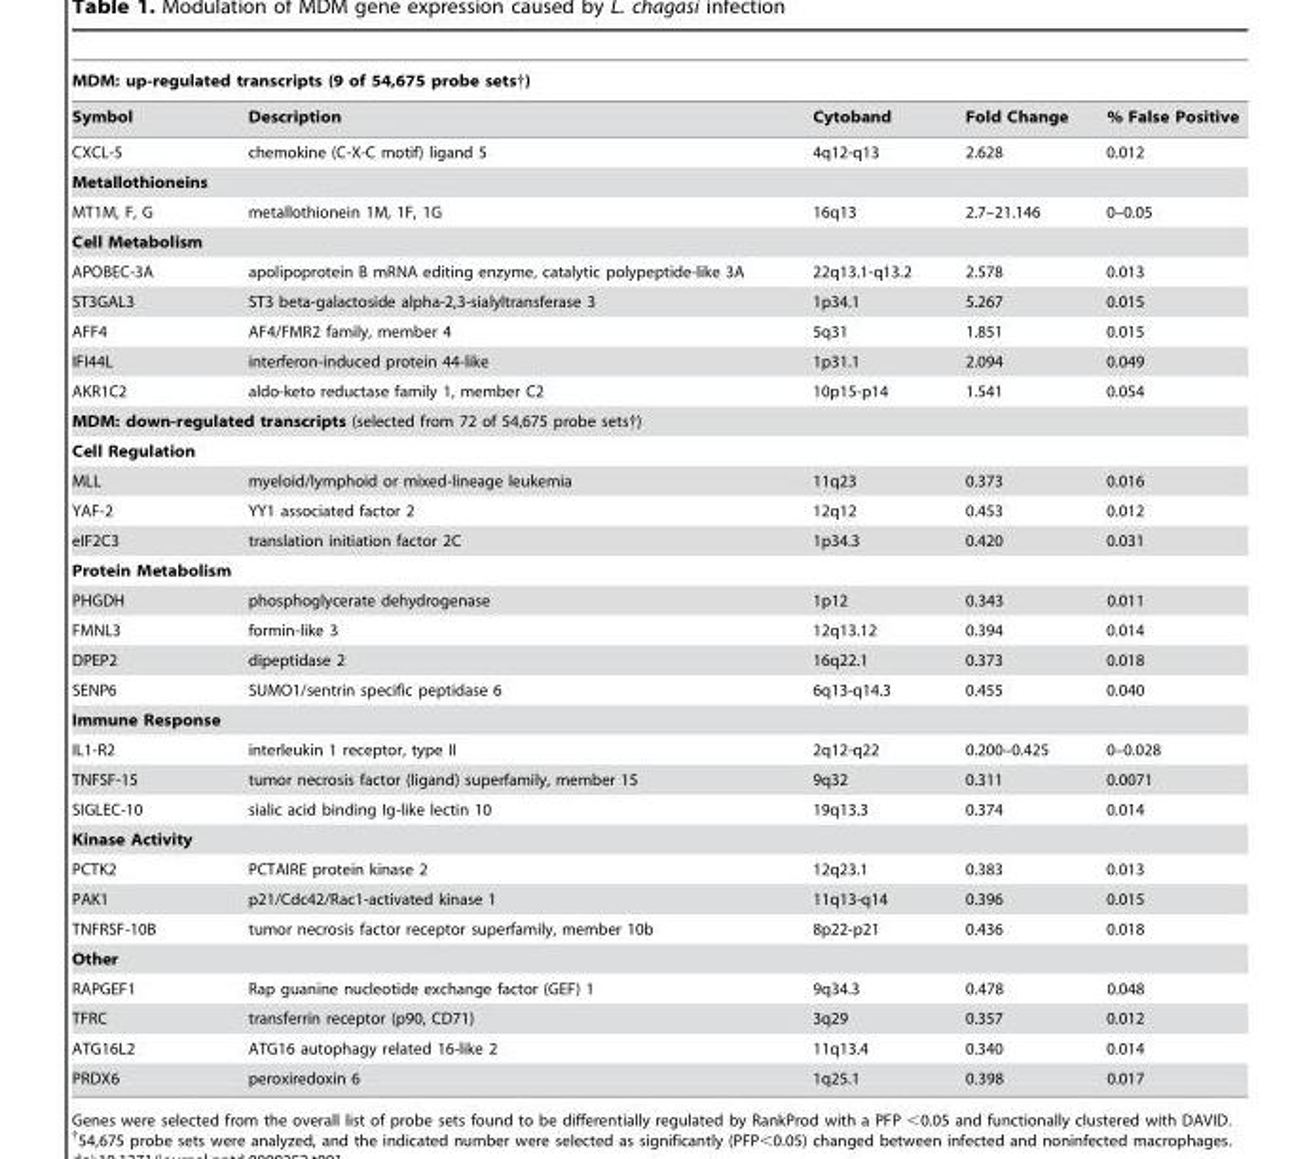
<table><thead><tr><td colspan="5">MDM: up-regulated transcripts (9 of 54,675 probe sets†)</td></tr><tr><td>Symbol</td><td>Description</td><td>Cytoband</td><td>Fold Change</td><td>% False Positive</td></tr></thead><tbody><tr><td>CXCL-5</td><td>chemokine (C-X-C motif) ligand 5</td><td>4q12-q13</td><td>2.628</td><td>0.012</td></tr><tr><td colspan="5">Metallothioneins</td></tr><tr><td>MT1M, F, G</td><td>metallothionein 1M, 1F, 1G</td><td>16q13</td><td>2.7–21.146</td><td>0–0.05</td></tr><tr><td colspan="5">Cell Metabolism</td></tr><tr><td>APOBEC-3A</td><td>apolipoprotein B mRNA editing enzyme, catalytic polypeptide-like 3A</td><td>22q13.1-q13.2</td><td>2.578</td><td>0.013</td></tr><tr><td>ST3GAL3</td><td>ST3 beta-galactoside alpha-2,3-sialyltransferase 3</td><td>1p34.1</td><td>5.267</td><td>0.015</td></tr><tr><td>AFF4</td><td>AF4/FMR2 family, member 4</td><td>5q31</td><td>1.851</td><td>0.015</td></tr><tr><td>IFI44L</td><td>interferon-induced protein 44-like</td><td>1p31.1</td><td>2.094</td><td>0.049</td></tr><tr><td>AKR1C2</td><td>aldo-keto reductase family 1, member C2</td><td>10p15-p14</td><td>1.541</td><td>0.054</td></tr><tr><td colspan="5">MDM: down-regulated transcripts (selected from 72 of 54,675 probe sets†)</td></tr><tr><td colspan="5">Cell Regulation</td></tr><tr><td>MLL</td><td>myeloid/lymphoid or mixed-lineage leukemia</td><td>11q23</td><td>0.373</td><td>0.016</td></tr><tr><td>YAF-2</td><td>YY1 associated factor 2</td><td>12q12</td><td>0.453</td><td>0.012</td></tr><tr><td>eIF2C3</td><td>translation initiation factor 2C</td><td>1p34.3</td><td>0.420</td><td>0.031</td></tr><tr><td colspan="5">Protein Metabolism</td></tr><tr><td>PHGDH</td><td>phosphoglycerate dehydrogenase</td><td>1p12</td><td>0.343</td><td>0.011</td></tr><tr><td>FMNL3</td><td>formin-like 3</td><td>12q13.12</td><td>0.394</td><td>0.014</td></tr><tr><td>DPEP2</td><td>dipeptidase 2</td><td>16q22.1</td><td>0.373</td><td>0.018</td></tr><tr><td>SENP6</td><td>SUMO1/sentrin specific peptidase 6</td><td>6q13-q14.3</td><td>0.455</td><td>0.040</td></tr><tr><td colspan="5">Immune Response</td></tr><tr><td>IL1-R2</td><td>interleukin 1 receptor, type II</td><td>2q12-q22</td><td>0.200–0.425</td><td>0–0.028</td></tr><tr><td>TNFSF-15</td><td>tumor necrosis factor (ligand) superfamily, member 15</td><td>9q32</td><td>0.311</td><td>0.0071</td></tr><tr><td>SIGLEC-10</td><td>sialic acid binding Ig-like lectin 10</td><td>19q13.3</td><td>0.374</td><td>0.014</td></tr><tr><td colspan="5">Kinase Activity</td></tr><tr><td>PCTK2</td><td>PCTAIRE protein kinase 2</td><td>12q23.1</td><td>0.383</td><td>0.013</td></tr><tr><td>PAK1</td><td>p21/Cdc42/Rac1-activated kinase 1</td><td>11q13-q14</td><td>0.396</td><td>0.015</td></tr><tr><td>TNFRSF-10B</td><td>tumor necrosis factor receptor superfamily, member 10b</td><td>8p22-p21</td><td>0.436</td><td>0.018</td></tr><tr><td colspan="5">Other</td></tr><tr><td>RAPGEF1</td><td>Rap guanine nucleotide exchange factor (GEF) 1</td><td>9q34.3</td><td>0.478</td><td>0.048</td></tr><tr><td>TFRC</td><td>transferrin receptor (p90, CD71)</td><td>3q29</td><td>0.357</td><td>0.012</td></tr><tr><td>ATG16L2</td><td>ATG16 autophagy related 16-like 2</td><td>11q13.4</td><td>0.340</td><td>0.014</td></tr><tr><td>PRDX6</td><td>peroxiredoxin 6</td><td>1q25.1</td><td>0.398</td><td>0.017</td></tr></tbody></table>